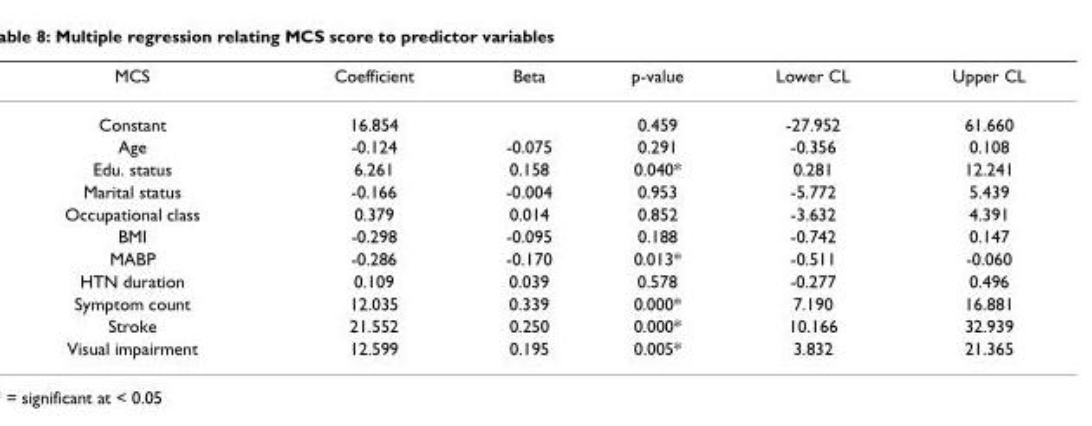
<table><thead><tr><td>MCS</td><td>Coefficient</td><td>Beta</td><td>p-value</td><td>Lower CL</td><td>Upper CL</td></tr></thead><tbody><tr><td>Constant</td><td>16.854</td><td></td><td>0.459</td><td>-27.952</td><td>61.660</td></tr><tr><td>Age</td><td>-0.124</td><td>-0.075</td><td>0.291</td><td>-0.356</td><td>0.108</td></tr><tr><td>Edu. status</td><td>6.261</td><td>0.158</td><td>0.040*</td><td>0.281</td><td>12.241</td></tr><tr><td>Marital status</td><td>-0.166</td><td>-0.004</td><td>0.953</td><td>-5.772</td><td>5.439</td></tr><tr><td>Occupational class</td><td>0.379</td><td>0.014</td><td>0.852</td><td>-3.632</td><td>4.391</td></tr><tr><td>BMI</td><td>-0.298</td><td>-0.095</td><td>0.188</td><td>-0.742</td><td>0.147</td></tr><tr><td>MABP</td><td>-0.286</td><td>-0.170</td><td>0.013*</td><td>-0.511</td><td>-0.060</td></tr><tr><td>HTN duration</td><td>0.109</td><td>0.039</td><td>0.578</td><td>-0.277</td><td>0.496</td></tr><tr><td>Symptom count</td><td>12.035</td><td>0.339</td><td>0.000*</td><td>7.190</td><td>16.881</td></tr><tr><td>Stroke</td><td>21.552</td><td>0.250</td><td>0.000*</td><td>10.166</td><td>32.939</td></tr><tr><td>Visual impairment</td><td>12.599</td><td>0.195</td><td>0.005*</td><td>3.832</td><td>21.365</td></tr></tbody></table>